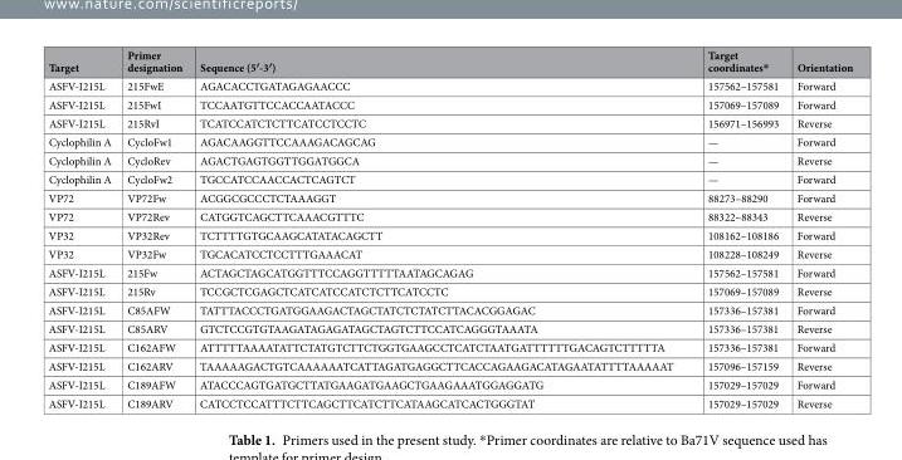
<table><thead><tr><td>Target</td><td>Primer designation</td><td>Sequence (5′-3′)</td><td>Target coordinates*</td><td>Orientation</td></tr></thead><tbody><tr><td>ASFV-I215L</td><td>215FwE</td><td>AGACACCTGATAGAGAACCC</td><td>157562–157581</td><td>Forward</td></tr><tr><td>ASFV-I215L</td><td>215FwI</td><td>TCCAATGTTCCACCAATACCC</td><td>157069–157089</td><td>Forward</td></tr><tr><td>ASFV-I215L</td><td>215RvI</td><td>TCATCCATCTCTTCATCCTCCTC</td><td>156971–156993</td><td>Reverse</td></tr><tr><td>Cyclophilin A</td><td>CycloFw1</td><td>AGACAAGGTTCCAAAGACAGCAG</td><td>—</td><td>Forward</td></tr><tr><td>Cyclophilin A</td><td>CycloRev</td><td>AGACTGAGTGGTTGGATGGCA</td><td>—</td><td>Reverse</td></tr><tr><td>Cyclophilin A</td><td>CycloFw2</td><td>TGCCATCCAACCACTCAGTCT</td><td>—</td><td>Forward</td></tr><tr><td>VP72</td><td>VP72Fw</td><td>ACGGCGCCCTCTAAAGGT</td><td>88273–88290</td><td>Forward</td></tr><tr><td>VP72</td><td>VP72Rev</td><td>CATGGTCAGCTTCAAACGTTTC</td><td>88322–88343</td><td>Reverse</td></tr><tr><td>VP32</td><td>VP32Rev</td><td>TCTTTTGTGCAAGCATATACAGCTT</td><td>108162–108186</td><td>Forward</td></tr><tr><td>VP32</td><td>VP32Fw</td><td>TGCACATCCTCCTTTGAAACAT</td><td>108228–108249</td><td>Reverse</td></tr><tr><td>ASFV-I215L</td><td>215Fw</td><td>ACTAGCTAGCATGGTTTCCAGGTTTTTAATAGCAGAG</td><td>157562–157581</td><td>Forward</td></tr><tr><td>ASFV-I215L</td><td>215Rv</td><td>TCCGCTCGAGCTCATCATCCATCTCTTCATCCTC</td><td>157069–157089</td><td>Reverse</td></tr><tr><td>ASFV-I215L</td><td>C85AFW</td><td>TATTTACCCTGATGGAAGACTAGCTATCTCTATCTTACACGGAGAC</td><td>157336–157381</td><td>Forward</td></tr><tr><td>ASFV-I215L</td><td>C85ARV</td><td>GTCTCCGTGTAAGATAGAGATAGCTAGTCTTCCATCAGGGTAAATA</td><td>157336–157381</td><td>Reverse</td></tr><tr><td>ASFV-I215L</td><td>C162AFW</td><td>ATTTTTAAAATATTCTATGTCTTCTGGTGAAGCCTCATCTAATGATTTTTTGACAGTCTTTTTA</td><td>157336–157381</td><td>Forward</td></tr><tr><td>ASFV-I215L</td><td>C162ARV</td><td>TAAAAAGACTGTCAAAAAATCATTAGATGAGGCTTCACCAGAAGACATAGAATATTTTAAAAAT</td><td>157096–157159</td><td>Reverse</td></tr><tr><td>ASFV-I215L</td><td>C189AFW</td><td>ATACCCAGTGATGCTTATGAAGATGAAGCTGAAGAAATGGAGGATG</td><td>157029–157029</td><td>Forward</td></tr><tr><td>ASFV-I215L</td><td>C189ARV</td><td>CATCCTCCATTTCTTCAGCTTCATCTTCATAAGCATCACTGGGTAT</td><td>157029–157029</td><td>Reverse</td></tr></tbody></table>